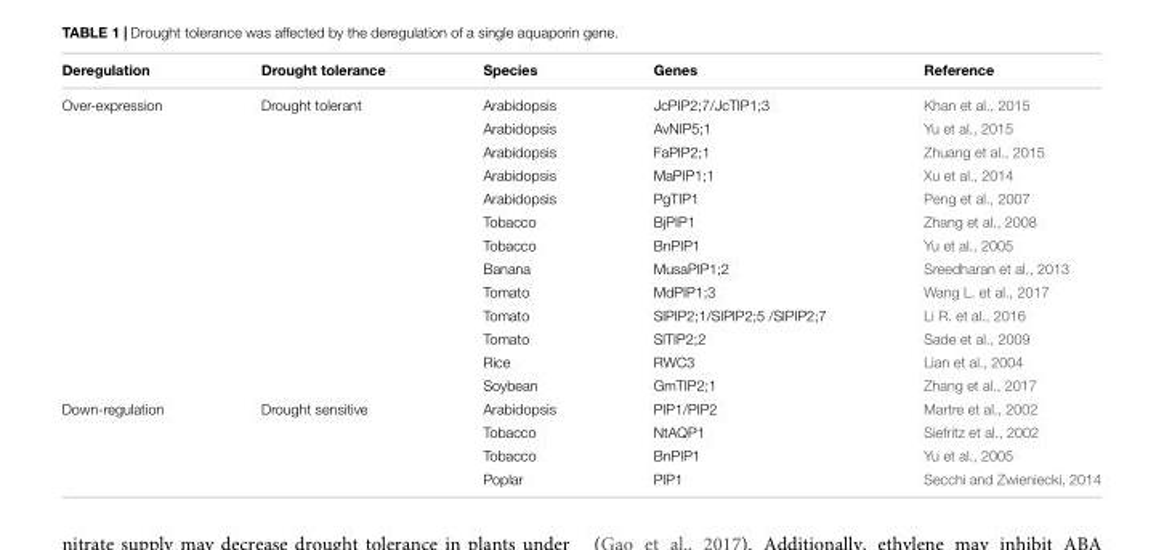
<table><thead><tr><td>Deregulation</td><td>Drought tolerance</td><td>Species</td><td>Genes</td><td>Reference</td></tr></thead><tbody><tr><td rowspan="13">Over-expression</td><td>Drought tolerant</td><td>Arabidopsis</td><td>JcPIP2;7/JcTIP1;3</td><td>Khan et al., 2015</td></tr><tr><td></td><td>Arabidopsis</td><td>AvNIP5;1</td><td>Yu et al., 2015</td></tr><tr><td></td><td>Arabidopsis</td><td>FaPIP2;1</td><td>Zhuang et al., 2015</td></tr><tr><td></td><td>Arabidopsis</td><td>MaPIP1;1</td><td>Xu et al., 2014</td></tr><tr><td></td><td>Arabidopsis</td><td>PgTIP1</td><td>Peng et al., 2007</td></tr><tr><td></td><td>Tobacco</td><td>BjPIP1</td><td>Zhang et al., 2008</td></tr><tr><td></td><td>Tobacco</td><td>BnPIP1</td><td>Yu et al., 2005</td></tr><tr><td></td><td>Banana</td><td>MusaPIP1;2</td><td>Sreedharan et al., 2013</td></tr><tr><td></td><td>Tomato</td><td>MdPIP1;3</td><td>Wang L. et al., 2017</td></tr><tr><td></td><td>Tomato</td><td>SlPIP2;1/SlPIP2;5 /SlPIP2;7</td><td>Li R. et al., 2016</td></tr><tr><td></td><td>Tomato</td><td>SlTIP2;2</td><td>Sade et al., 2009</td></tr><tr><td></td><td>Rice</td><td>RWC3</td><td>Lian et al., 2004</td></tr><tr><td></td><td>Soybean</td><td>GmTIP2;1</td><td>Zhang et al., 2017</td></tr><tr><td rowspan="4">Down-regulation</td><td>Drought sensitive</td><td>Arabidopsis</td><td>PIP1/PIP2</td><td>Martre et al., 2002</td></tr><tr><td></td><td>Tobacco</td><td>NtAQP1</td><td>Siefritz et al., 2002</td></tr><tr><td></td><td>Tobacco</td><td>BnPIP1</td><td>Yu et al., 2005</td></tr><tr><td></td><td>Poplar</td><td>PIP1</td><td>Secchi and Zwieniecki, 2014</td></tr></tbody></table>